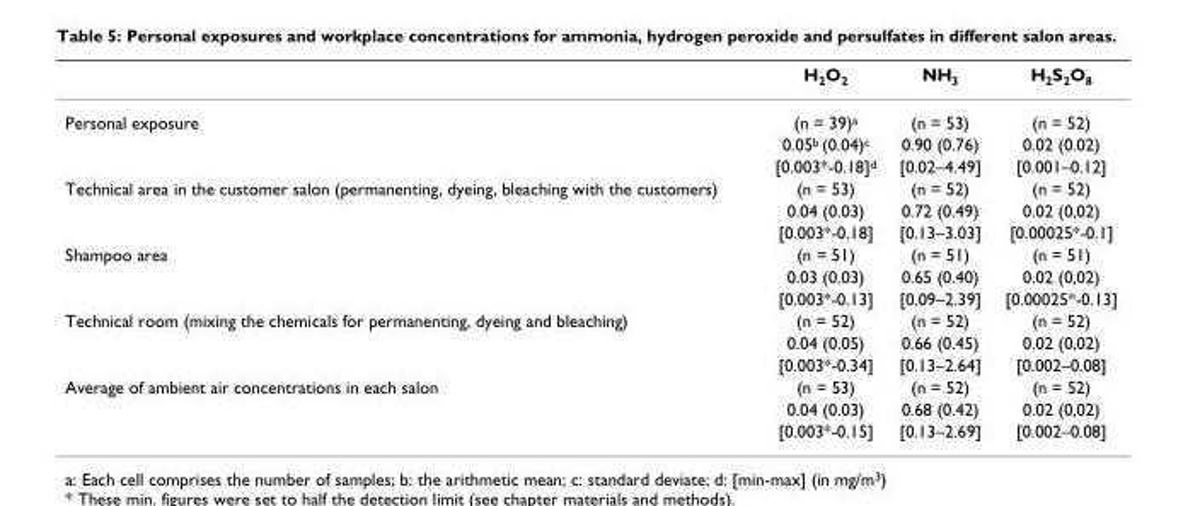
<table><thead><tr><td></td><td>H<sub>2</sub>O<sub>2</sub></td><td>NH<sub>3</sub></td><td>H<sub>2</sub>S<sub>2</sub>O<sub>8</sub></td></tr></thead><tbody><tr><td rowspan="3">Personal exposure</td><td>(n = 39)<sup>a</sup></td><td>(n = 53)</td><td>(n = 52)</td></tr><tr><td>0.05<sup>b</sup> (0.04)<sup>c</sup></td><td>0.90 (0.76)</td><td>0.02 (0.02)</td></tr><tr><td>[0.003*-0.18]<sup>d</sup></td><td>[0.02–4.49]</td><td>[0.001–0.12]</td></tr><tr><td rowspan="3">Technical area in the customer salon (permanenting, dyeing, bleaching with the customers)</td><td>(n = 53)</td><td>(n = 52)</td><td>(n = 52)</td></tr><tr><td>0.04 (0.03)</td><td>0.72 (0.49)</td><td>0.02 (0,02)</td></tr><tr><td>[0.003*-0.18]</td><td>[0.13–3.03]</td><td>[0.00025*-0.1]</td></tr><tr><td rowspan="3">Shampoo area</td><td>(n = 51)</td><td>(n = 51)</td><td>(n = 51)</td></tr><tr><td>0.03 (0.03)</td><td>0.65 (0.40)</td><td>0.02 (0,02)</td></tr><tr><td>[0.003*-0.13]</td><td>[0.09–2.39]</td><td>[0.00025*-0.13]</td></tr><tr><td rowspan="3">Technical room (mixing the chemicals for permanenting, dyeing and bleaching)</td><td>(n = 52)</td><td>(n = 52)</td><td>(n = 52)</td></tr><tr><td>0.04 (0.05)</td><td>0.66 (0.45)</td><td>0.02 (0,02)</td></tr><tr><td>[0.003*-0.34]</td><td>[0.13–2.64]</td><td>[0.002–0.08]</td></tr><tr><td rowspan="3">Average of ambient air concentrations in each salon</td><td>(n = 53)</td><td>(n = 52)</td><td>(n = 52)</td></tr><tr><td>0.04 (0.03)</td><td>0.68 (0.42)</td><td>0.02 (0,02)</td></tr><tr><td>[0.003*-0.15]</td><td>[0.13–2.69]</td><td>[0.002–0.08]</td></tr></tbody></table>